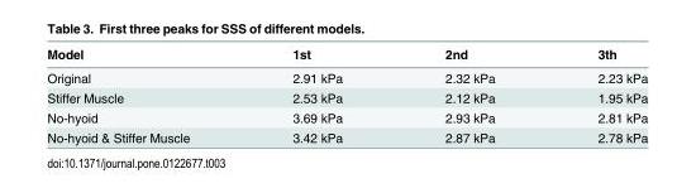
<table><thead><tr><td>Model</td><td>1st</td><td>2nd</td><td>3th</td></tr></thead><tbody><tr><td>Original</td><td>2.91 kPa</td><td>2.32 kPa</td><td>2.23 kPa</td></tr><tr><td>Stiffer Muscle</td><td>2.53 kPa</td><td>2.12 kPa</td><td>1.95 kPa</td></tr><tr><td>No-hyoid</td><td>3.69 kPa</td><td>2.93 kPa</td><td>2.81 kPa</td></tr><tr><td>No-hyoid &amp; Stiffer Muscle</td><td>3.42 kPa</td><td>2.87 kPa</td><td>2.78 kPa</td></tr></tbody></table>